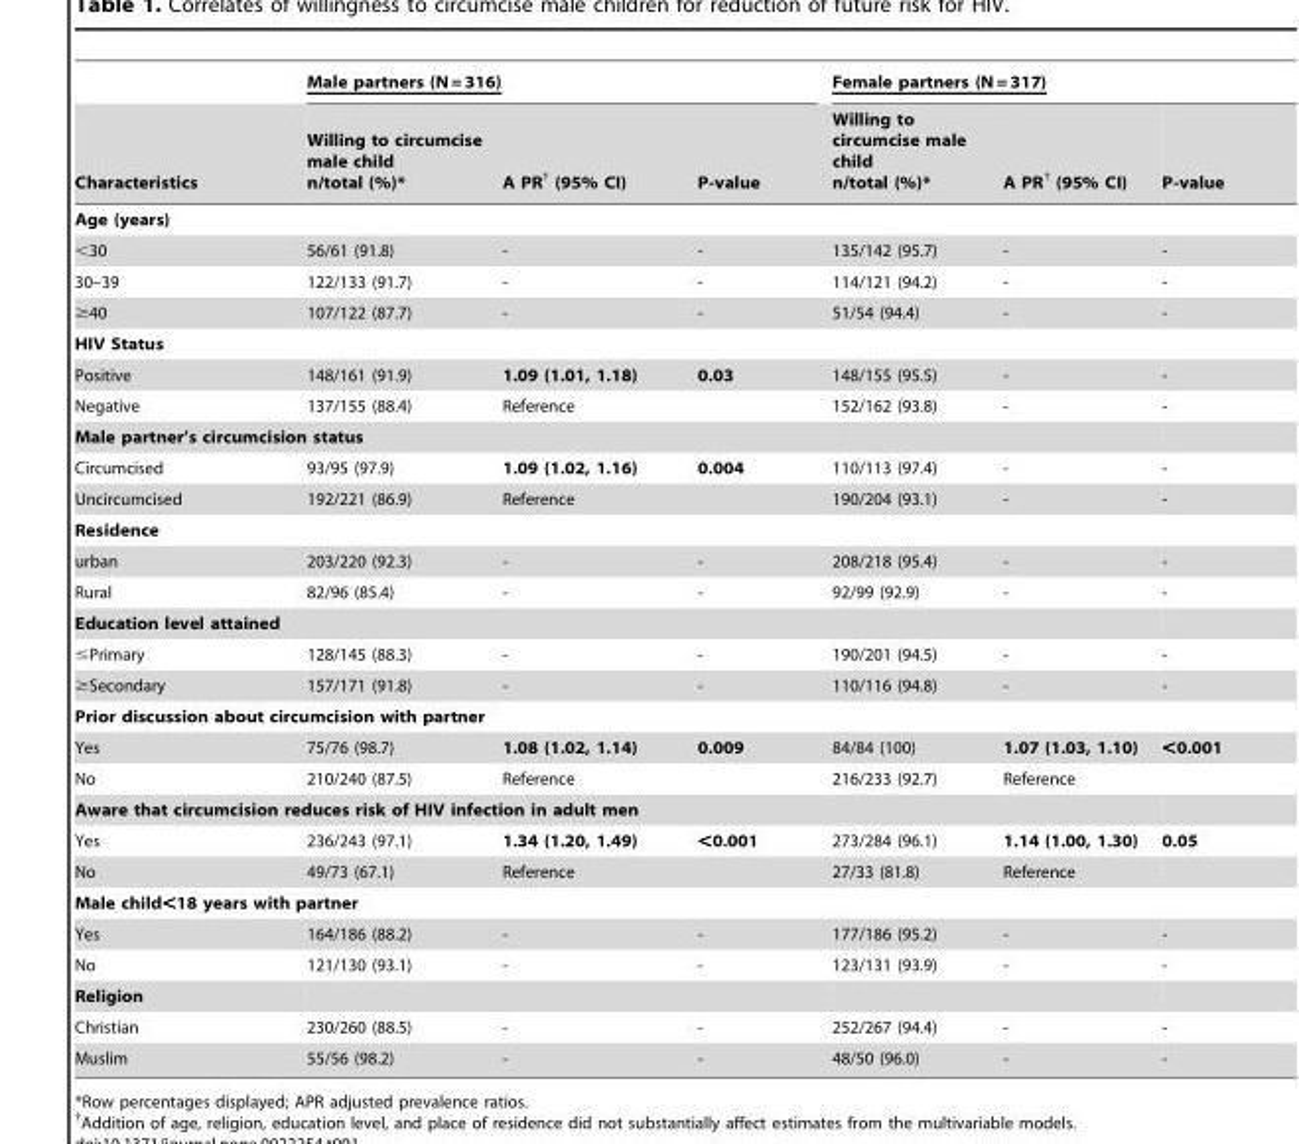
<table><thead><tr><td rowspan="2">Characteristics</td><td colspan="3">Male partners (N = 316)</td><td colspan="3">Female partners (N = 317)</td></tr><tr><td>Willing to circumcise male child n/total (%)*</td><td>A PR† (95% CI)</td><td>P-value</td><td>Willing to circumcise male child n/total (%)*</td><td>A PR† (95% CI)</td><td>P-value</td></tr></thead><tbody><tr><td colspan="7">Age (years)</td></tr><tr><td>&lt;30</td><td>56/61 (91.8)</td><td>-</td><td>-</td><td>135/142 (95.7)</td><td>-</td><td>-</td></tr><tr><td>30–39</td><td>122/133 (91.7)</td><td>-</td><td>-</td><td>114/121 (94.2)</td><td>-</td><td>-</td></tr><tr><td>≥40</td><td>107/122 (87.7)</td><td>-</td><td>-</td><td>51/54 (94.4)</td><td>-</td><td>-</td></tr><tr><td colspan="7">HIV Status</td></tr><tr><td>Positive</td><td>148/161 (91.9)</td><td>1.09 (1.01, 1.18)</td><td>0.03</td><td>148/155 (95.5)</td><td>-</td><td>-</td></tr><tr><td>Negative</td><td>137/155 (88.4)</td><td>Reference</td><td></td><td>152/162 (93.8)</td><td>-</td><td>-</td></tr><tr><td colspan="7">Male partner’s circumcision status</td></tr><tr><td>Circumcised</td><td>93/95 (97.9)</td><td>1.09 (1.02, 1.16)</td><td>0.004</td><td>110/113 (97.4)</td><td>-</td><td>-</td></tr><tr><td>Uncircumcised</td><td>192/221 (86.9)</td><td>Reference</td><td></td><td>190/204 (93.1)</td><td>-</td><td>-</td></tr><tr><td colspan="7">Residence</td></tr><tr><td>urban</td><td>203/220 (92.3)</td><td>-</td><td>-</td><td>208/218 (95.4)</td><td>-</td><td>-</td></tr><tr><td>Rural</td><td>82/96 (85.4)</td><td>-</td><td>-</td><td>92/99 (92.9)</td><td>-</td><td>-</td></tr><tr><td colspan="7">Education level attained</td></tr><tr><td>≤Primary</td><td>128/145 (88.3)</td><td>-</td><td>-</td><td>190/201 (94.5)</td><td>-</td><td>-</td></tr><tr><td>≥Secondary</td><td>157/171 (91.8)</td><td>-</td><td>-</td><td>110/116 (94.8)</td><td>-</td><td>-</td></tr><tr><td colspan="7">Prior discussion about circumcision with partner</td></tr><tr><td>Yes</td><td>75/76 (98.7)</td><td>1.08 (1.02, 1.14)</td><td>0.009</td><td>84/84 (100)</td><td>1.07 (1.03, 1.10)</td><td>&lt;0.001</td></tr><tr><td>No</td><td>210/240 (87.5)</td><td>Reference</td><td></td><td>216/233 (92.7)</td><td>Reference</td><td></td></tr><tr><td colspan="7">Aware that circumcision reduces risk of HIV infection in adult men</td></tr><tr><td>Yes</td><td>236/243 (97.1)</td><td>1.34 (1.20, 1.49)</td><td>&lt;0.001</td><td>273/284 (96.1)</td><td>1.14 (1.00, 1.30)</td><td>0.05</td></tr><tr><td>No</td><td>49/73 (67.1)</td><td>Reference</td><td></td><td>27/33 (81.8)</td><td>Reference</td><td></td></tr><tr><td colspan="7">Male child&lt;18 years with partner</td></tr><tr><td>Yes</td><td>164/186 (88.2)</td><td>-</td><td>-</td><td>177/186 (95.2)</td><td>-</td><td>-</td></tr><tr><td>No</td><td>121/130 (93.1)</td><td>-</td><td>-</td><td>123/131 (93.9)</td><td>-</td><td>-</td></tr><tr><td colspan="7">Religion</td></tr><tr><td>Christian</td><td>230/260 (88.5)</td><td>-</td><td>-</td><td>252/267 (94.4)</td><td>-</td><td>-</td></tr><tr><td>Muslim</td><td>55/56 (98.2)</td><td>-</td><td>-</td><td>48/50 (96.0)</td><td>-</td><td>-</td></tr></tbody></table>